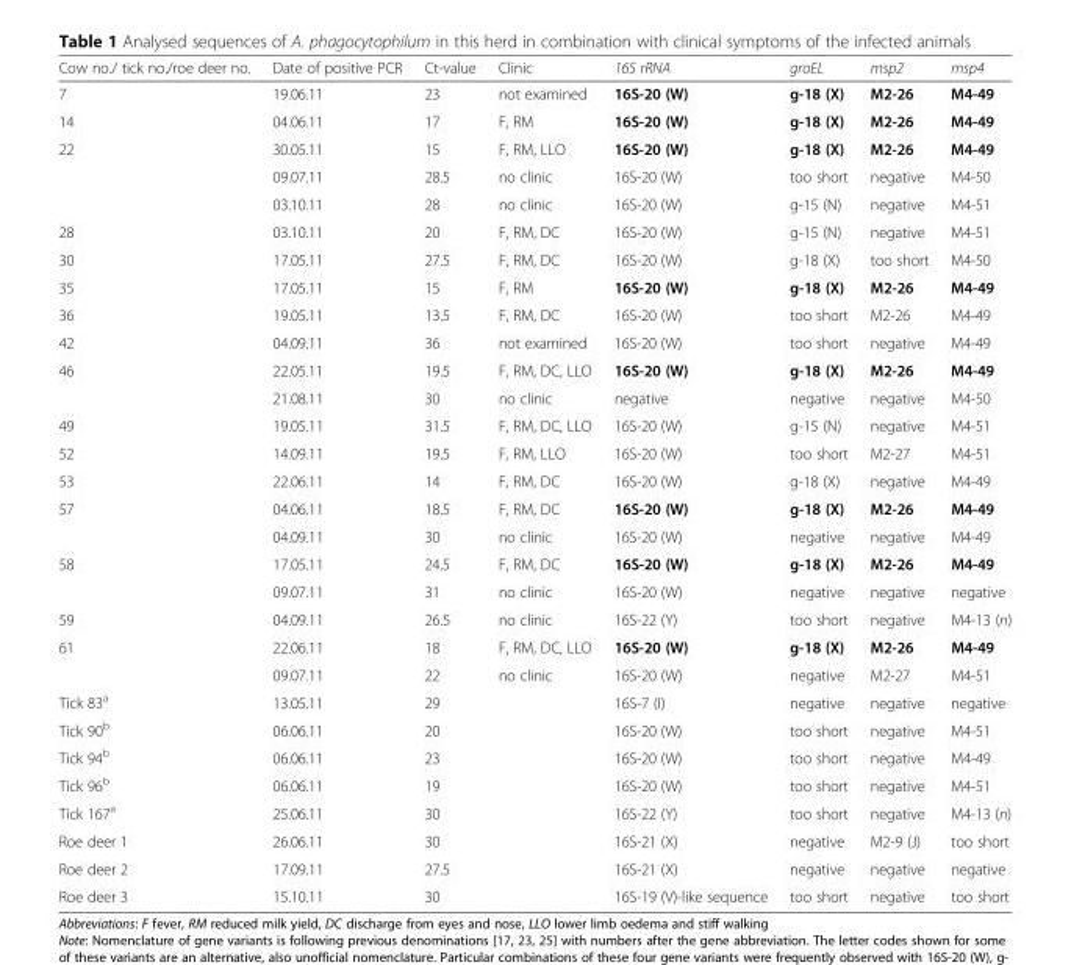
<table><thead><tr><td>Cow no./ tick no./roe deer no.</td><td>Date of positive PCR</td><td>Ct-value</td><td>Clinic</td><td>16S rRNA</td><td>groEL</td><td>msp2</td><td>msp4</td></tr></thead><tbody><tr><td>7</td><td>19.06.11</td><td>23</td><td>not examined</td><td>16S-20 (W)</td><td>g-18 (X)</td><td>M2-26</td><td>M4-49</td></tr><tr><td>14</td><td>04.06.11</td><td>17</td><td>F, RM</td><td>16S-20 (W)</td><td>g-18 (X)</td><td>M2-26</td><td>M4-49</td></tr><tr><td rowspan="3">22</td><td>30.05.11</td><td>15</td><td>F, RM, LLO</td><td>16S-20 (W)</td><td>g-18 (X)</td><td>M2-26</td><td>M4-49</td></tr><tr><td>09.07.11</td><td>28.5</td><td>no clinic</td><td>16S-20 (W)</td><td>too short</td><td>negative</td><td>M4-50</td></tr><tr><td>03.10.11</td><td>28</td><td>no clinic</td><td>16S-20 (W)</td><td>g-15 (N)</td><td>negative</td><td>M4-51</td></tr><tr><td>28</td><td>03.10.11</td><td>20</td><td>F, RM, DC</td><td>16S-20 (W)</td><td>g-15 (N)</td><td>negative</td><td>M4-51</td></tr><tr><td>30</td><td>17.05.11</td><td>27.5</td><td>F, RM, DC</td><td>16S-20 (W)</td><td>g-18 (X)</td><td>too short</td><td>M4-50</td></tr><tr><td>35</td><td>17.05.11</td><td>15</td><td>F, RM</td><td>16S-20 (W)</td><td>g-18 (X)</td><td>M2-26</td><td>M4-49</td></tr><tr><td>36</td><td>19.05.11</td><td>13.5</td><td>F, RM, DC</td><td>16S-20 (W)</td><td>too short</td><td>M2-26</td><td>M4-49</td></tr><tr><td>42</td><td>04.09.11</td><td>36</td><td>not examined</td><td>16S-20 (W)</td><td>too short</td><td>negative</td><td>M4-49</td></tr><tr><td rowspan="2">46</td><td>22.05.11</td><td>19.5</td><td>F, RM, DC, LLO</td><td>16S-20 (W)</td><td>g-18 (X)</td><td>M2-26</td><td>M4-49</td></tr><tr><td>21.08.11</td><td>30</td><td>no clinic</td><td>negative</td><td>negative</td><td>negative</td><td>M4-50</td></tr><tr><td>49</td><td>19.05.11</td><td>31.5</td><td>F, RM, DC, LLO</td><td>16S-20 (W)</td><td>g-15 (N)</td><td>negative</td><td>M4-51</td></tr><tr><td>52</td><td>14.09.11</td><td>19.5</td><td>F, RM, LLO</td><td>16S-20 (W)</td><td>too short</td><td>M2-27</td><td>M4-51</td></tr><tr><td>53</td><td>22.06.11</td><td>14</td><td>F, RM, DC</td><td>16S-20 (W)</td><td>g-18 (X)</td><td>negative</td><td>M4-49</td></tr><tr><td rowspan="2">57</td><td>04.06.11</td><td>18.5</td><td>F, RM, DC</td><td>16S-20 (W)</td><td>g-18 (X)</td><td>M2-26</td><td>M4-49</td></tr><tr><td>04.09.11</td><td>30</td><td>no clinic</td><td>16S-20 (W)</td><td>negative</td><td>negative</td><td>M4-49</td></tr><tr><td rowspan="2">58</td><td>17.05.11</td><td>24.5</td><td>F, RM, DC</td><td>16S-20 (W)</td><td>g-18 (X)</td><td>M2-26</td><td>M4-49</td></tr><tr><td>09.07.11</td><td>31</td><td>no clinic</td><td>16S-20 (W)</td><td>negative</td><td>negative</td><td>negative</td></tr><tr><td>59</td><td>04.09.11</td><td>26.5</td><td>no clinic</td><td>16S-22 (Y)</td><td>too short</td><td>negative</td><td>M4-13 (n)</td></tr><tr><td rowspan="2">61</td><td>22.06.11</td><td>18</td><td>F, RM, DC, LLO</td><td>16S-20 (W)</td><td>g-18 (X)</td><td>M2-26</td><td>M4-49</td></tr><tr><td>09.07.11</td><td>22</td><td>no clinic</td><td>16S-20 (W)</td><td>negative</td><td>M2-27</td><td>M4-51</td></tr><tr><td>Tick 83<sup>a</sup></td><td>13.05.11</td><td>29</td><td></td><td>16S-7 (I)</td><td>negative</td><td>negative</td><td>negative</td></tr><tr><td>Tick 90<sup>b</sup></td><td>06.06.11</td><td>20</td><td></td><td>16S-20 (W)</td><td>too short</td><td>negative</td><td>M4-51</td></tr><tr><td>Tick 94<sup>b</sup></td><td>06.06.11</td><td>23</td><td></td><td>16S-20 (W)</td><td>too short</td><td>negative</td><td>M4-49</td></tr><tr><td>Tick 96<sup>b</sup></td><td>06.06.11</td><td>19</td><td></td><td>16S-20 (W)</td><td>too short</td><td>negative</td><td>M4-51</td></tr><tr><td>Tick 167<sup>a</sup></td><td>25.06.11</td><td>30</td><td></td><td>16S-22 (Y)</td><td>too short</td><td>negative</td><td>M4-13 (n)</td></tr><tr><td>Roe deer 1</td><td>26.06.11</td><td>30</td><td></td><td>16S-21 (X)</td><td>negative</td><td>M2-9 (J)</td><td>too short</td></tr><tr><td>Roe deer 2</td><td>17.09.11</td><td>27.5</td><td></td><td>16S-21 (X)</td><td>negative</td><td>negative</td><td>negative</td></tr><tr><td>Roe deer 3</td><td>15.10.11</td><td>30</td><td></td><td>16S-19 (V)-like sequence</td><td>too short</td><td>negative</td><td>too short</td></tr></tbody></table>